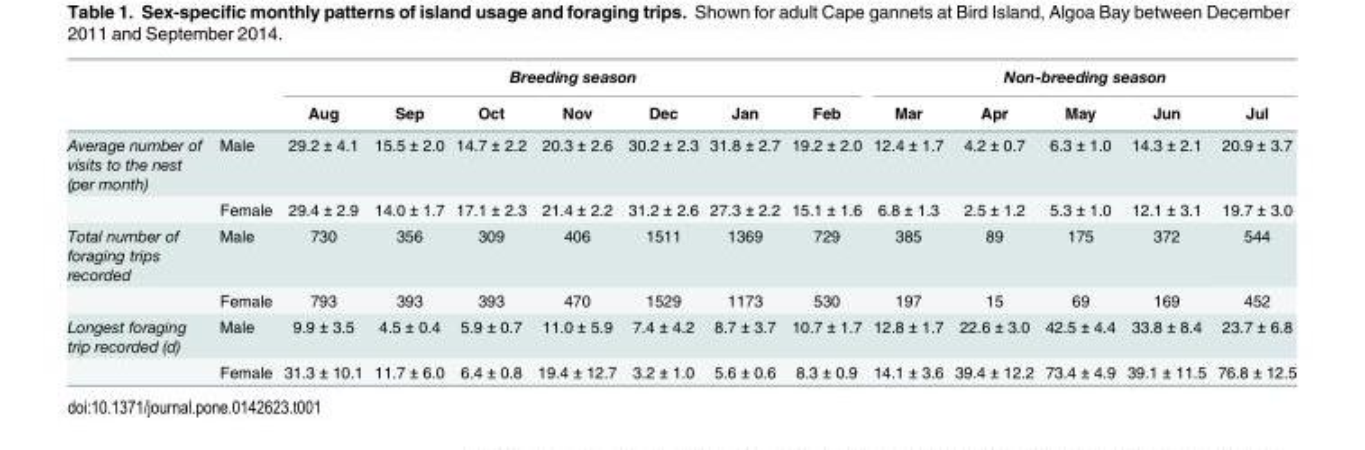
<table><thead><tr><td rowspan="2"></td><td rowspan="2"></td><td colspan="7">Breeding season</td><td colspan="5">Non-breeding season</td></tr><tr><td>Aug</td><td>Sep</td><td>Oct</td><td>Nov</td><td>Dec</td><td>Jan</td><td>Feb</td><td>Mar</td><td>Apr</td><td>May</td><td>Jun</td><td>Jul</td></tr></thead><tbody><tr><td rowspan="2">Average number of visits to the nest (per month)</td><td>Male</td><td>29.2 ± 4.1</td><td>15.5 ± 2.0</td><td>14.7 ± 2.2</td><td>20.3 ± 2.6</td><td>30.2 ± 2.3</td><td>31.8 ± 2.7</td><td>19.2 ± 2.0</td><td>12.4 ± 1.7</td><td>4.2 ± 0.7</td><td>6.3 ± 1.0</td><td>14.3 ± 2.1</td><td>20.9 ± 3.7</td></tr><tr><td>Female</td><td>29.4 ± 2.9</td><td>14.0 ± 1.7</td><td>17.1 ± 2.3</td><td>21.4 ± 2.2</td><td>31.2 ± 2.6</td><td>27.3 ± 2.2</td><td>15.1 ± 1.6</td><td>6.8 ± 1.3</td><td>2.5 ± 1.2</td><td>5.3 ± 1.0</td><td>12.1 ± 3.1</td><td>19.7 ± 3.0</td></tr><tr><td rowspan="2">Total number of foraging trips recorded</td><td>Male</td><td>730</td><td>356</td><td>309</td><td>406</td><td>1511</td><td>1369</td><td>729</td><td>385</td><td>89</td><td>175</td><td>372</td><td>544</td></tr><tr><td>Female</td><td>793</td><td>393</td><td>393</td><td>470</td><td>1529</td><td>1173</td><td>530</td><td>197</td><td>15</td><td>69</td><td>169</td><td>452</td></tr><tr><td rowspan="2">Longest foraging trip recorded (d)</td><td>Male</td><td>9.9 ± 3.5</td><td>4.5 ± 0.4</td><td>5.9 ± 0.7</td><td>11.0 ± 5.9</td><td>7.4 ± 4.2</td><td>8.7 ± 3.7</td><td>10.7 ± 1.7</td><td>12.8 ± 1.7</td><td>22.6 ± 3.0</td><td>42.5 ± 4.4</td><td>33.8 ± 8.4</td><td>23.7 ± 6.8</td></tr><tr><td>Female</td><td>31.3 ± 10.1</td><td>11.7 ± 6.0</td><td>6.4 ± 0.8</td><td>19.4 ± 12.7</td><td>3.2 ± 1.0</td><td>5.6 ± 0.6</td><td>8.3 ± 0.9</td><td>14.1 ± 3.6</td><td>39.4 ± 12.2</td><td>73.4 ± 4.9</td><td>39.1 ± 11.5</td><td>76.8 ± 12.5</td></tr></tbody></table>